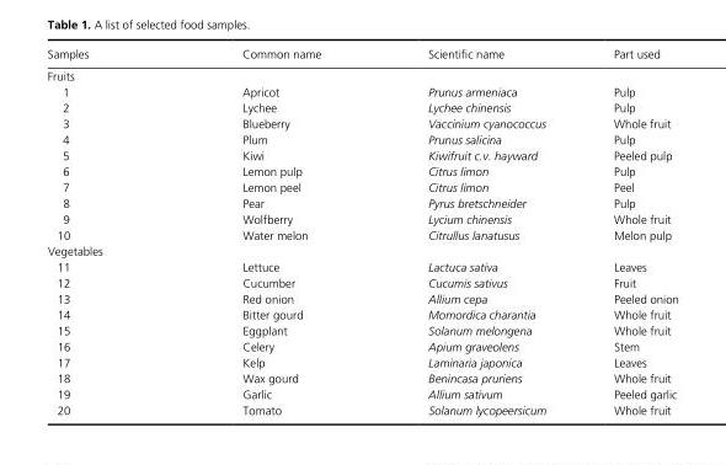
<table><thead><tr><td>Samples</td><td>Common name</td><td>Scientific name</td><td>Part used</td></tr></thead><tbody><tr><td colspan="4">Fruits</td></tr><tr><td>1</td><td>Apricot</td><td>Prunus armeniaca</td><td>Pulp</td></tr><tr><td>2</td><td>Lychee</td><td>Lychee chinensis</td><td>Pulp</td></tr><tr><td>3</td><td>Blueberry</td><td>Vaccinium cyanococcus</td><td>Whole fruit</td></tr><tr><td>4</td><td>Plum</td><td>Prunus salicina</td><td>Pulp</td></tr><tr><td>5</td><td>Kiwi</td><td>Kiwifruit c.v. hayward</td><td>Peeled pulp</td></tr><tr><td>6</td><td>Lemon pulp</td><td>Citrus limon</td><td>Pulp</td></tr><tr><td>7</td><td>Lemon peel</td><td>Citrus limon</td><td>Peel</td></tr><tr><td>8</td><td>Pear</td><td>Pyrus bretschneider</td><td>Pulp</td></tr><tr><td>9</td><td>Wolfberry</td><td>Lycium chinensis</td><td>Whole fruit</td></tr><tr><td>10</td><td>Water melon</td><td>Citrullus lanatusus</td><td>Melon pulp</td></tr><tr><td colspan="4">Vegetables</td></tr><tr><td>11</td><td>Lettuce</td><td>Lactuca sativa</td><td>Leaves</td></tr><tr><td>12</td><td>Cucumber</td><td>Cucumis sativus</td><td>Fruit</td></tr><tr><td>13</td><td>Red onion</td><td>Allium cepa</td><td>Peeled onion</td></tr><tr><td>14</td><td>Bitter gourd</td><td>Momordica charantia</td><td>Whole fruit</td></tr><tr><td>15</td><td>Eggplant</td><td>Solanum melongena</td><td>Whole fruit</td></tr><tr><td>16</td><td>Celery</td><td>Apium graveolens</td><td>Stem</td></tr><tr><td>17</td><td>Kelp</td><td>Laminaria japonica</td><td>Leaves</td></tr><tr><td>18</td><td>Wax gourd</td><td>Benincasa pruriens</td><td>Whole fruit</td></tr><tr><td>19</td><td>Garlic</td><td>Allium sativum</td><td>Peeled garlic</td></tr><tr><td>20</td><td>Tomato</td><td>Solanum lycopeersicum</td><td>Whole fruit</td></tr></tbody></table>